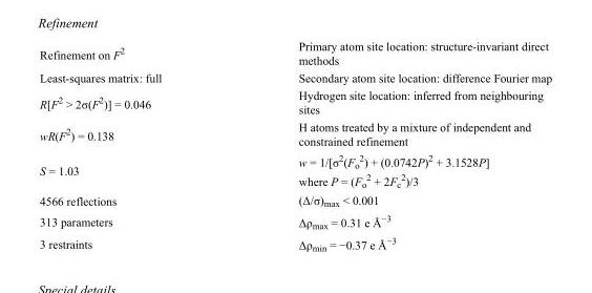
<table><tbody><tr><td>Refinement on F<sup>2</sup></td><td>Primary atom site location: structure-invariant direct methods</td></tr><tr><td>Least-squares matrix: full</td><td>Secondary atom site location: difference Fourier map</td></tr><tr><td>R[F<sup>2</sup> &gt; 2σ(F<sup>2</sup>)] = 0.046</td><td>Hydrogen site location: inferred from neighbouring sites</td></tr><tr><td>wR(F<sup>2</sup>) = 0.138</td><td>H atoms treated by a mixture of independent and constrained refinement</td></tr><tr><td>S = 1.03</td><td>w = 1/[σ<sup>2</sup>(F<sub>o</sub> <sup>2</sup>) + (0.0742P)<sup>2</sup> + 3.1528P] where P = (F<sub>o</sub> <sup>2</sup> + 2F<sub>c</sub> <sup>2</sup>)/3</td></tr><tr><td>4566 reflections</td><td>(Δ/σ)<sub>max</sub> &lt; 0.001</td></tr><tr><td>313 parameters</td><td>Δρ<sub>max</sub> = 0.31 e Å<sup>−3</sup></td></tr><tr><td>3 restraints</td><td>Δρ<sub>min</sub> = −0.37 e Å<sup>−3</sup></td></tr></tbody></table>